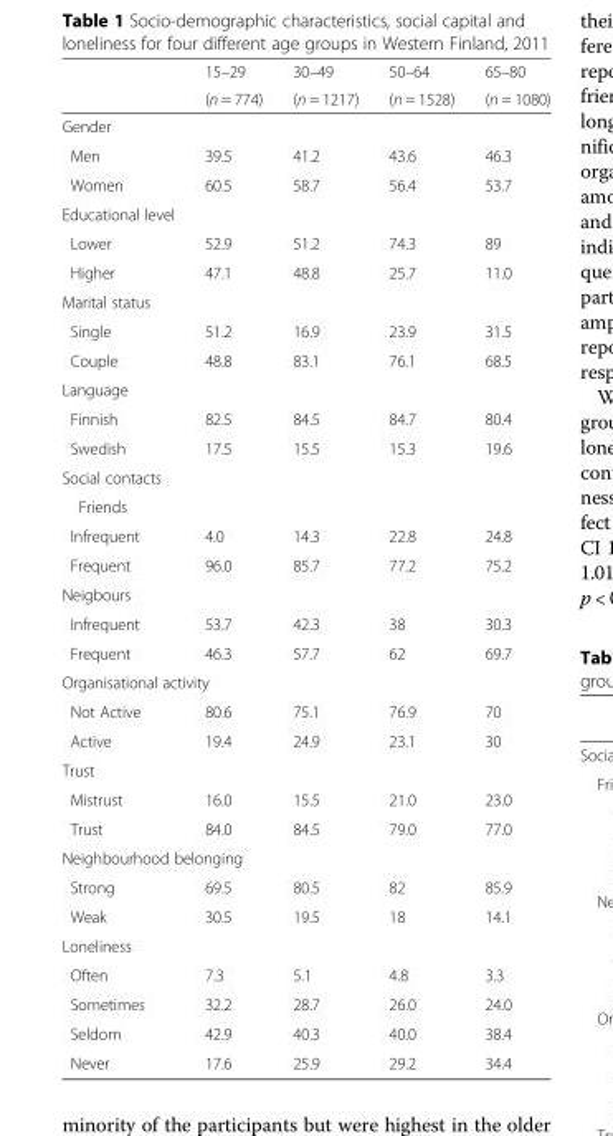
<table><thead><tr><td rowspan="2"></td><td rowspan="2">15–29 (n = 774)</td><td rowspan="2">30–49 (n = 1217)</td><td rowspan="2">50–64 (n = 1528)</td><td rowspan="2">65–80 (n = 1080)</td></tr><tr></tr></thead><tbody><tr><td colspan="5">Gender</td></tr><tr><td>Men</td><td>39.5</td><td>41.2</td><td>43.6</td><td>46.3</td></tr><tr><td>Women</td><td>60.5</td><td>58.7</td><td>56.4</td><td>53.7</td></tr><tr><td colspan="5">Educational level</td></tr><tr><td>Lower</td><td>52.9</td><td>51.2</td><td>74.3</td><td>89</td></tr><tr><td>Higher</td><td>47.1</td><td>48.8</td><td>25.7</td><td>11.0</td></tr><tr><td colspan="5">Marital status</td></tr><tr><td>Single</td><td>51.2</td><td>16.9</td><td>23.9</td><td>31.5</td></tr><tr><td>Couple</td><td>48.8</td><td>83.1</td><td>76.1</td><td>68.5</td></tr><tr><td colspan="5">Language</td></tr><tr><td>Finnish</td><td>82.5</td><td>84.5</td><td>84.7</td><td>80.4</td></tr><tr><td>Swedish</td><td>17.5</td><td>15.5</td><td>15.3</td><td>19.6</td></tr><tr><td colspan="5">Social contacts</td></tr><tr><td colspan="5">Friends</td></tr><tr><td>Infrequent</td><td>4.0</td><td>14.3</td><td>22.8</td><td>24.8</td></tr><tr><td>Frequent</td><td>96.0</td><td>85.7</td><td>77.2</td><td>75.2</td></tr><tr><td colspan="5">Neigbours</td></tr><tr><td>Infrequent</td><td>53.7</td><td>42.3</td><td>38</td><td>30.3</td></tr><tr><td>Frequent</td><td>46.3</td><td>57.7</td><td>62</td><td>69.7</td></tr><tr><td colspan="5">Organisational activity</td></tr><tr><td>Not Active</td><td>80.6</td><td>75.1</td><td>76.9</td><td>70</td></tr><tr><td>Active</td><td>19.4</td><td>24.9</td><td>23.1</td><td>30</td></tr><tr><td colspan="5">Trust</td></tr><tr><td>Mistrust</td><td>16.0</td><td>15.5</td><td>21.0</td><td>23.0</td></tr><tr><td>Trust</td><td>84.0</td><td>84.5</td><td>79.0</td><td>77.0</td></tr><tr><td colspan="5">Neighbourhood belonging</td></tr><tr><td>Strong</td><td>69.5</td><td>80.5</td><td>82</td><td>85.9</td></tr><tr><td>Weak</td><td>30.5</td><td>19.5</td><td>18</td><td>14.1</td></tr><tr><td colspan="5">Loneliness</td></tr><tr><td>Often</td><td>7.3</td><td>5.1</td><td>4.8</td><td>3.3</td></tr><tr><td>Sometimes</td><td>32.2</td><td>28.7</td><td>26.0</td><td>24.0</td></tr><tr><td>Seldom</td><td>42.9</td><td>40.3</td><td>40.0</td><td>38.4</td></tr><tr><td>Never</td><td>17.6</td><td>25.9</td><td>29.2</td><td>34.4</td></tr></tbody></table>